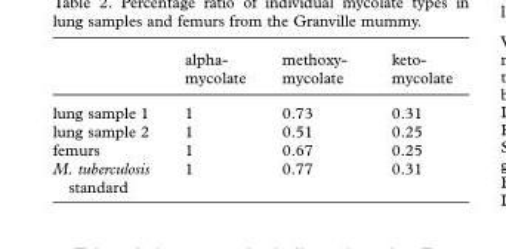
<table><thead><tr><td></td><td>alpha- mycolate</td><td>methoxy- mycolate</td><td>keto- mycolate</td></tr></thead><tbody><tr><td>lung sample 1</td><td>1</td><td>0.73</td><td>0.31</td></tr><tr><td>lung sample 2</td><td>1</td><td>0.51</td><td>0.25</td></tr><tr><td>femurs</td><td>1</td><td>0.67</td><td>0.25</td></tr><tr><td>M. tuberculosis standard</td><td>1</td><td>0.77</td><td>0.31</td></tr></tbody></table>